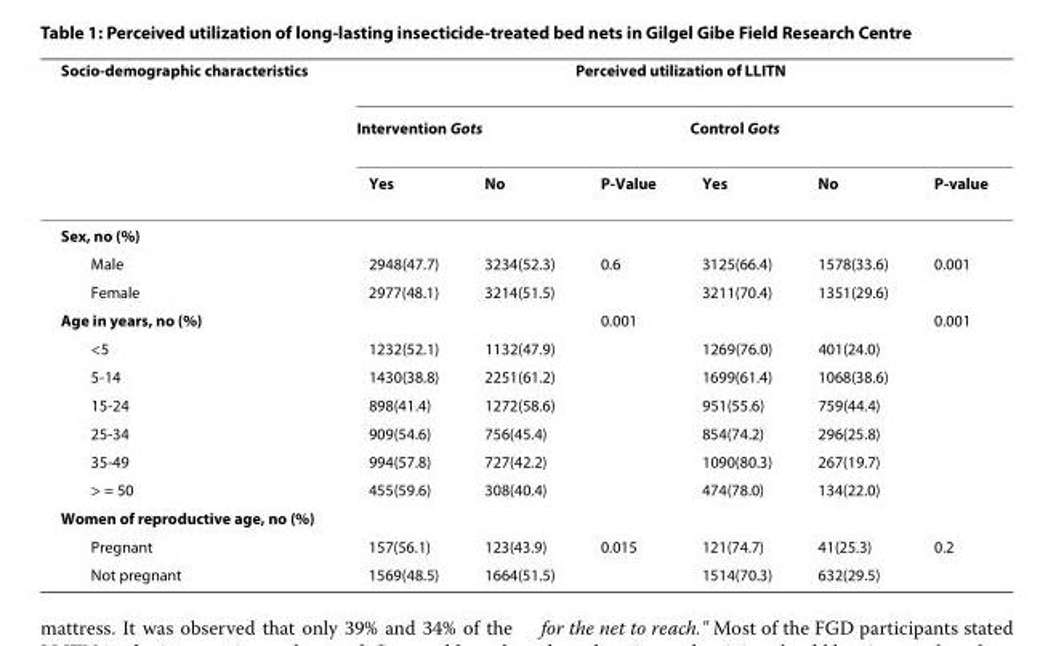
<table><thead><tr><td rowspan="3">Socio-demographic characteristics</td><td colspan="6">Perceived utilization of LLITN</td></tr><tr><td colspan="3">Intervention Gots</td><td colspan="3">Control Gots</td></tr><tr><td>Yes</td><td>No</td><td>P-Value</td><td>Yes</td><td>No</td><td>P-value</td></tr></thead><tbody><tr><td colspan="7">Sex, no (%)</td></tr><tr><td>Male</td><td>2948(47.7)</td><td>3234(52.3)</td><td>0.6</td><td>3125(66.4)</td><td>1578(33.6)</td><td>0.001</td></tr><tr><td>Female</td><td>2977(48.1)</td><td>3214(51.5)</td><td></td><td>3211(70.4)</td><td>1351(29.6)</td><td></td></tr><tr><td>Age in years, no (%)</td><td></td><td></td><td>0.001</td><td></td><td></td><td>0.001</td></tr><tr><td>&lt;5</td><td>1232(52.1)</td><td>1132(47.9)</td><td></td><td>1269(76.0)</td><td>401(24.0)</td><td></td></tr><tr><td>5-14</td><td>1430(38.8)</td><td>2251(61.2)</td><td></td><td>1699(61.4)</td><td>1068(38.6)</td><td></td></tr><tr><td>15-24</td><td>898(41.4)</td><td>1272(58.6)</td><td></td><td>951(55.6)</td><td>759(44.4)</td><td></td></tr><tr><td>25-34</td><td>909(54.6)</td><td>756(45.4)</td><td></td><td>854(74.2)</td><td>296(25.8)</td><td></td></tr><tr><td>35-49</td><td>994(57.8)</td><td>727(42.2)</td><td></td><td>1090(80.3)</td><td>267(19.7)</td><td></td></tr><tr><td>&gt; = 50</td><td>455(59.6)</td><td>308(40.4)</td><td></td><td>474(78.0)</td><td>134(22.0)</td><td></td></tr><tr><td colspan="7">Women of reproductive age, no (%)</td></tr><tr><td>Pregnant</td><td>157(56.1)</td><td>123(43.9)</td><td>0.015</td><td>121(74.7)</td><td>41(25.3)</td><td>0.2</td></tr><tr><td>Not pregnant</td><td>1569(48.5)</td><td>1664(51.5)</td><td></td><td>1514(70.3)</td><td>632(29.5)</td><td></td></tr></tbody></table>